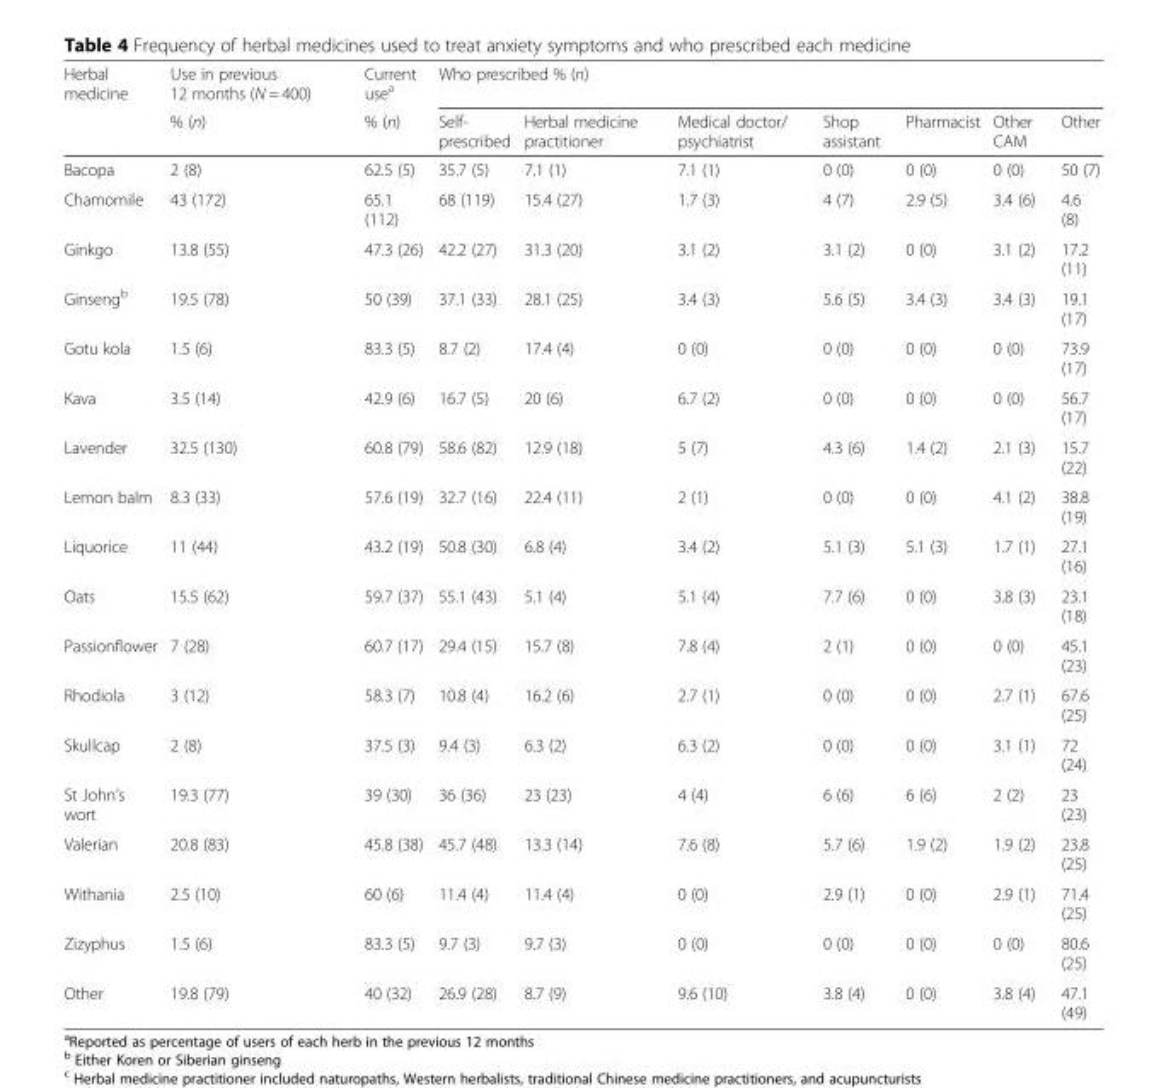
<table><thead><tr><td rowspan="2">Herbal medicine</td><td rowspan="2">Use in previous 12 months (N = 400) % (n)</td><td rowspan="2">Current use<sup>a</sup> % (n)</td><td colspan="7">Who prescribed % (n)</td></tr><tr><td>Self- prescribed</td><td>Herbal medicine practitioner</td><td>Medical doctor/ psychiatrist</td><td>Shop assistant</td><td>Pharmacist</td><td>Other CAM</td><td>Other</td></tr></thead><tbody><tr><td>Bacopa</td><td>2 (8)</td><td>62.5 (5)</td><td>35.7 (5)</td><td>7.1 (1)</td><td>7.1 (1)</td><td>0 (0)</td><td>0 (0)</td><td>0 (0)</td><td>50 (7)</td></tr><tr><td>Chamomile</td><td>43 (172)</td><td>65.1 (112)</td><td>68 (119)</td><td>15.4 (27)</td><td>1.7 (3)</td><td>4 (7)</td><td>2.9 (5)</td><td>3.4 (6)</td><td>4.6 (8)</td></tr><tr><td>Ginkgo</td><td>13.8 (55)</td><td>47.3 (26)</td><td>42.2 (27)</td><td>31.3 (20)</td><td>3.1 (2)</td><td>3.1 (2)</td><td>0 (0)</td><td>3.1 (2)</td><td>17.2 (11)</td></tr><tr><td>Ginseng<sup>b</sup></td><td>19.5 (78)</td><td>50 (39)</td><td>37.1 (33)</td><td>28.1 (25)</td><td>3.4 (3)</td><td>5.6 (5)</td><td>3.4 (3)</td><td>3.4 (3)</td><td>19.1 (17)</td></tr><tr><td>Gotu kola</td><td>1.5 (6)</td><td>83.3 (5)</td><td>8.7 (2)</td><td>17.4 (4)</td><td>0 (0)</td><td>0 (0)</td><td>0 (0)</td><td>0 (0)</td><td>73.9 (17)</td></tr><tr><td>Kava</td><td>3.5 (14)</td><td>42.9 (6)</td><td>16.7 (5)</td><td>20 (6)</td><td>6.7 (2)</td><td>0 (0)</td><td>0 (0)</td><td>0 (0)</td><td>56.7 (17)</td></tr><tr><td>Lavender</td><td>32.5 (130)</td><td>60.8 (79)</td><td>58.6 (82)</td><td>12.9 (18)</td><td>5 (7)</td><td>4.3 (6)</td><td>1.4 (2)</td><td>2.1 (3)</td><td>15.7 (22)</td></tr><tr><td>Lemon balm</td><td>8.3 (33)</td><td>57.6 (19)</td><td>32.7 (16)</td><td>22.4 (11)</td><td>2 (1)</td><td>0 (0)</td><td>0 (0)</td><td>4.1 (2)</td><td>38.8 (19)</td></tr><tr><td>Liquorice</td><td>11 (44)</td><td>43.2 (19)</td><td>50.8 (30)</td><td>6.8 (4)</td><td>3.4 (2)</td><td>5.1 (3)</td><td>5.1 (3)</td><td>1.7 (1)</td><td>27.1 (16)</td></tr><tr><td>Oats</td><td>15.5 (62)</td><td>59.7 (37)</td><td>55.1 (43)</td><td>5.1 (4)</td><td>5.1 (4)</td><td>7.7 (6)</td><td>0 (0)</td><td>3.8 (3)</td><td>23.1 (18)</td></tr><tr><td>Passionflower</td><td>7 (28)</td><td>60.7 (17)</td><td>29.4 (15)</td><td>15.7 (8)</td><td>7.8 (4)</td><td>2 (1)</td><td>0 (0)</td><td>0 (0)</td><td>45.1 (23)</td></tr><tr><td>Rhodiola</td><td>3 (12)</td><td>58.3 (7)</td><td>10.8 (4)</td><td>16.2 (6)</td><td>2.7 (1)</td><td>0 (0)</td><td>0 (0)</td><td>2.7 (1)</td><td>67.6 (25)</td></tr><tr><td>Skullcap</td><td>2 (8)</td><td>37.5 (3)</td><td>9.4 (3)</td><td>6.3 (2)</td><td>6.3 (2)</td><td>0 (0)</td><td>0 (0)</td><td>3.1 (1)</td><td>72 (24)</td></tr><tr><td>St John’s wort</td><td>19.3 (77)</td><td>39 (30)</td><td>36 (36)</td><td>23 (23)</td><td>4 (4)</td><td>6 (6)</td><td>6 (6)</td><td>2 (2)</td><td>23 (23)</td></tr><tr><td>Valerian</td><td>20.8 (83)</td><td>45.8 (38)</td><td>45.7 (48)</td><td>13.3 (14)</td><td>7.6 (8)</td><td>5.7 (6)</td><td>1.9 (2)</td><td>1.9 (2)</td><td>23.8 (25)</td></tr><tr><td>Withania</td><td>2.5 (10)</td><td>60 (6)</td><td>11.4 (4)</td><td>11.4 (4)</td><td>0 (0)</td><td>2.9 (1)</td><td>0 (0)</td><td>2.9 (1)</td><td>71.4 (25)</td></tr><tr><td>Zizyphus</td><td>1.5 (6)</td><td>83.3 (5)</td><td>9.7 (3)</td><td>9.7 (3)</td><td>0 (0)</td><td>0 (0)</td><td>0 (0)</td><td>0 (0)</td><td>80.6 (25)</td></tr><tr><td>Other</td><td>19.8 (79)</td><td>40 (32)</td><td>26.9 (28)</td><td>8.7 (9)</td><td>9.6 (10)</td><td>3.8 (4)</td><td>0 (0)</td><td>3.8 (4)</td><td>47.1 (49)</td></tr></tbody></table>